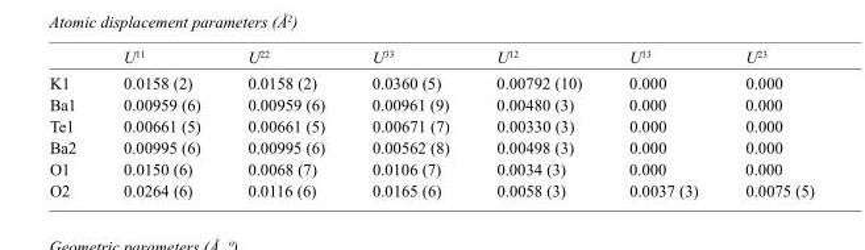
<table><thead><tr><td></td><td>U<sup>11</sup></td><td>U<sup>22</sup></td><td>U<sup>33</sup></td><td>U<sup>12</sup></td><td>U<sup>13</sup></td><td>U<sup>23</sup></td></tr></thead><tbody><tr><td>K1</td><td>0.0158 (2)</td><td>0.0158 (2)</td><td>0.0360 (5)</td><td>0.00792 (10)</td><td>0.000</td><td>0.000</td></tr><tr><td>Ba1</td><td>0.00959 (6)</td><td>0.00959 (6)</td><td>0.00961 (9)</td><td>0.00480 (3)</td><td>0.000</td><td>0.000</td></tr><tr><td>Te1</td><td>0.00661 (5)</td><td>0.00661 (5)</td><td>0.00671 (7)</td><td>0.00330 (3)</td><td>0.000</td><td>0.000</td></tr><tr><td>Ba2</td><td>0.00995 (6)</td><td>0.00995 (6)</td><td>0.00562 (8)</td><td>0.00498 (3)</td><td>0.000</td><td>0.000</td></tr><tr><td>O1</td><td>0.0150 (6)</td><td>0.0068 (7)</td><td>0.0106 (7)</td><td>0.0034 (3)</td><td>0.000</td><td>0.000</td></tr><tr><td>O2</td><td>0.0264 (6)</td><td>0.0116 (6)</td><td>0.0165 (6)</td><td>0.0058 (3)</td><td>0.0037 (3)</td><td>0.0075 (5)</td></tr></tbody></table>